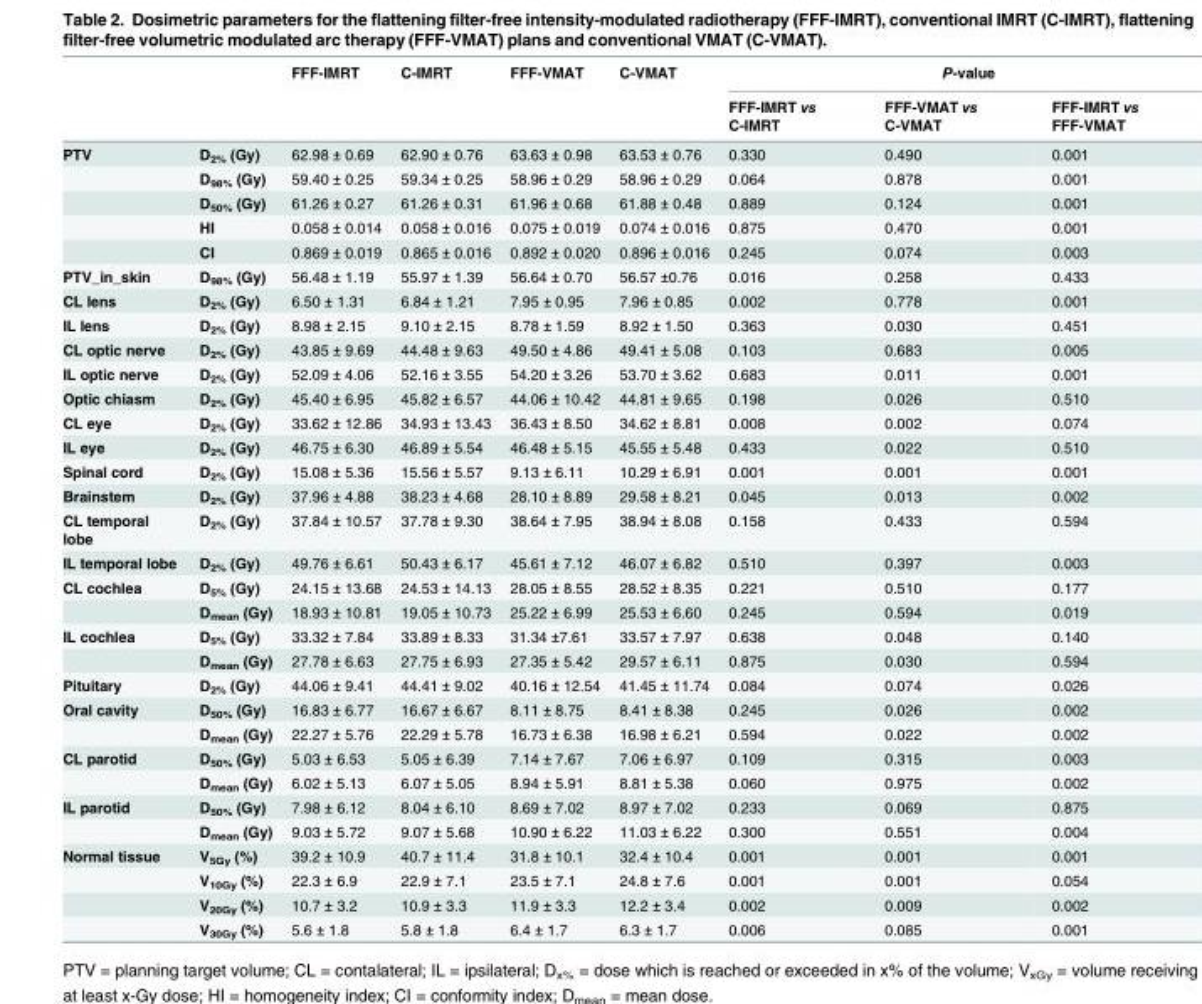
<table><thead><tr><td rowspan="2"></td><td rowspan="2"></td><td rowspan="2">FFF-IMRT</td><td rowspan="2">C-IMRT</td><td rowspan="2">FFF-VMAT</td><td rowspan="2">C-VMAT</td><td colspan="3">P-value</td></tr><tr><td>FFF-IMRT vs C-IMRT</td><td>FFF-VMAT vs C-VMAT</td><td>FFF-IMRT vs FFF-VMAT</td></tr></thead><tbody><tr><td rowspan="5">PTV</td><td>D<sub>2%</sub> (Gy)</td><td>62.98 ± 0.69</td><td>62.90 ± 0.76</td><td>63.63 ± 0.98</td><td>63.53 ± 0.76</td><td>0.330</td><td>0.490</td><td>0.001</td></tr><tr><td>D<sub>98%</sub> (Gy)</td><td>59.40 ± 0.25</td><td>59.34 ± 0.25</td><td>58.96 ± 0.29</td><td>58.96 ± 0.29</td><td>0.064</td><td>0.878</td><td>0.001</td></tr><tr><td>D<sub>50%</sub> (Gy)</td><td>61.26 ± 0.27</td><td>61.26 ± 0.31</td><td>61.96 ± 0.68</td><td>61.88 ± 0.48</td><td>0.889</td><td>0.124</td><td>0.001</td></tr><tr><td>HI</td><td>0.058 ± 0.014</td><td>0.058 ± 0.016</td><td>0.075 ± 0.019</td><td>0.074 ± 0.016</td><td>0.875</td><td>0.470</td><td>0.001</td></tr><tr><td>CI</td><td>0.869 ± 0.019</td><td>0.865 ± 0.016</td><td>0.892 ± 0.020</td><td>0.896 ± 0.016</td><td>0.245</td><td>0.074</td><td>0.003</td></tr><tr><td>PTV_in_skin</td><td>D<sub>98%</sub> (Gy)</td><td>56.48 ± 1.19</td><td>55.97 ± 1.39</td><td>56.64 ± 0.70</td><td>56.57 ±0.76</td><td>0.016</td><td>0.258</td><td>0.433</td></tr><tr><td>CL lens</td><td>D<sub>2%</sub> (Gy)</td><td>6.50 ± 1.31</td><td>6.84 ± 1.21</td><td>7.95 ± 0.95</td><td>7.96 ± 0.85</td><td>0.002</td><td>0.778</td><td>0.001</td></tr><tr><td>IL lens</td><td>D<sub>2%</sub> (Gy)</td><td>8.98 ± 2.15</td><td>9.10 ± 2.15</td><td>8.78 ± 1.59</td><td>8.92 ± 1.50</td><td>0.363</td><td>0.030</td><td>0.451</td></tr><tr><td>CL optic nerve</td><td>D<sub>2%</sub> (Gy)</td><td>43.85 ± 9.69</td><td>44.48 ± 9.63</td><td>49.50 ± 4.86</td><td>49.41 ± 5.08</td><td>0.103</td><td>0.683</td><td>0.005</td></tr><tr><td>IL optic nerve</td><td>D<sub>2%</sub> (Gy)</td><td>52.09 ± 4.06</td><td>52.16 ± 3.55</td><td>54.20 ± 3.26</td><td>53.70 ± 3.62</td><td>0.683</td><td>0.011</td><td>0.001</td></tr><tr><td>Optic chiasm</td><td>D<sub>2%</sub> (Gy)</td><td>45.40 ± 6.95</td><td>45.82 ± 6.57</td><td>44.06 ± 10.42</td><td>44.81 ± 9.65</td><td>0.198</td><td>0.026</td><td>0.510</td></tr><tr><td>CL eye</td><td>D<sub>2%</sub> (Gy)</td><td>33.62 ± 12.86</td><td>34.93 ± 13.43</td><td>36.43 ± 8.50</td><td>34.62 ± 8.81</td><td>0.008</td><td>0.002</td><td>0.074</td></tr><tr><td>IL eye</td><td>D<sub>2%</sub> (Gy)</td><td>46.75 ± 6.30</td><td>46.89 ± 5.54</td><td>46.48 ± 5.15</td><td>45.55 ± 5.48</td><td>0.433</td><td>0.022</td><td>0.510</td></tr><tr><td>Spinal cord</td><td>D<sub>2%</sub> (Gy)</td><td>15.08 ± 5.36</td><td>15.56 ± 5.57</td><td>9.13 ± 6.11</td><td>10.29 ± 6.91</td><td>0.001</td><td>0.001</td><td>0.001</td></tr><tr><td>Brainstem</td><td>D<sub>2%</sub> (Gy)</td><td>37.96 ± 4.88</td><td>38.23 ± 4.68</td><td>28.10 ± 8.89</td><td>29.58 ± 8.21</td><td>0.045</td><td>0.013</td><td>0.002</td></tr><tr><td>CL temporal lobe</td><td>D<sub>2%</sub> (Gy)</td><td>37.84 ± 10.57</td><td>37.78 ± 9.30</td><td>38.64 ± 7.95</td><td>38.94 ± 8.08</td><td>0.158</td><td>0.433</td><td>0.594</td></tr><tr><td>IL temporal lobe</td><td>D<sub>2%</sub> (Gy)</td><td>49.76 ± 6.61</td><td>50.43 ± 6.17</td><td>45.61 ± 7.12</td><td>46.07 ± 6.82</td><td>0.510</td><td>0.397</td><td>0.003</td></tr><tr><td rowspan="2">CL cochlea</td><td>D<sub>5%</sub> (Gy)</td><td>24.15 ± 13.68</td><td>24.53 ± 14.13</td><td>28.05 ± 8.55</td><td>28.52 ± 8.35</td><td>0.221</td><td>0.510</td><td>0.177</td></tr><tr><td>D<sub>mean</sub> (Gy)</td><td>18.93 ± 10.81</td><td>19.05 ± 10.73</td><td>25.22 ± 6.99</td><td>25.53 ± 6.60</td><td>0.245</td><td>0.594</td><td>0.019</td></tr><tr><td rowspan="2">IL cochlea</td><td>D<sub>5%</sub> (Gy)</td><td>33.32 ± 7.84</td><td>33.89 ± 8.33</td><td>31.34 ±7.61</td><td>33.57 ± 7.97</td><td>0.638</td><td>0.048</td><td>0.140</td></tr><tr><td>D<sub>mean</sub> (Gy)</td><td>27.78 ± 6.63</td><td>27.75 ± 6.93</td><td>27.35 ± 5.42</td><td>29.57 ± 6.11</td><td>0.875</td><td>0.030</td><td>0.594</td></tr><tr><td>Pituitary</td><td>D<sub>2%</sub> (Gy)</td><td>44.06 ± 9.41</td><td>44.41 ± 9.02</td><td>40.16 ± 12.54</td><td>41.45 ± 11.74</td><td>0.084</td><td>0.074</td><td>0.026</td></tr><tr><td rowspan="2">Oral cavity</td><td>D<sub>50%</sub> (Gy)</td><td>16.83 ± 6.77</td><td>16.67 ± 6.67</td><td>8.11 ± 8.75</td><td>8.41 ± 8.38</td><td>0.245</td><td>0.026</td><td>0.002</td></tr><tr><td>D<sub>mean</sub> (Gy)</td><td>22.27 ± 5.76</td><td>22.29 ± 5.78</td><td>16.73 ± 6.38</td><td>16.98 ± 6.21</td><td>0.594</td><td>0.022</td><td>0.002</td></tr><tr><td rowspan="2">CL parotid</td><td>D<sub>50%</sub> (Gy)</td><td>5.03 ± 6.53</td><td>5.05 ± 6.39</td><td>7.14 ± 7.67</td><td>7.06 ± 6.97</td><td>0.109</td><td>0.315</td><td>0.003</td></tr><tr><td>D<sub>mean</sub> (Gy)</td><td>6.02 ± 5.13</td><td>6.07 ± 5.05</td><td>8.94 ± 5.91</td><td>8.81 ± 5.38</td><td>0.060</td><td>0.975</td><td>0.002</td></tr><tr><td rowspan="2">IL parotid</td><td>D<sub>50%</sub> (Gy)</td><td>7.98 ± 6.12</td><td>8.04 ± 6.10</td><td>8.69 ± 7.02</td><td>8.97 ± 7.02</td><td>0.233</td><td>0.069</td><td>0.875</td></tr><tr><td>D<sub>mean</sub> (Gy)</td><td>9.03 ± 5.72</td><td>9.07 ± 5.68</td><td>10.90 ± 6.22</td><td>11.03 ± 6.22</td><td>0.300</td><td>0.551</td><td>0.004</td></tr><tr><td rowspan="4">Normal tissue</td><td>V<sub>5Gy</sub> (%)</td><td>39.2 ± 10.9</td><td>40.7 ± 11.4</td><td>31.8 ± 10.1</td><td>32.4 ± 10.4</td><td>0.001</td><td>0.001</td><td>0.001</td></tr><tr><td>V<sub>10Gy</sub> (%)</td><td>22.3 ± 6.9</td><td>22.9 ± 7.1</td><td>23.5 ± 7.1</td><td>24.8 ± 7.6</td><td>0.001</td><td>0.001</td><td>0.054</td></tr><tr><td>V<sub>20Gy</sub> (%)</td><td>10.7 ± 3.2</td><td>10.9 ± 3.3</td><td>11.9 ± 3.3</td><td>12.2 ± 3.4</td><td>0.002</td><td>0.009</td><td>0.002</td></tr><tr><td>V<sub>30Gy</sub> (%)</td><td>5.6 ± 1.8</td><td>5.8 ± 1.8</td><td>6.4 ± 1.7</td><td>6.3 ± 1.7</td><td>0.006</td><td>0.085</td><td>0.001</td></tr></tbody></table>